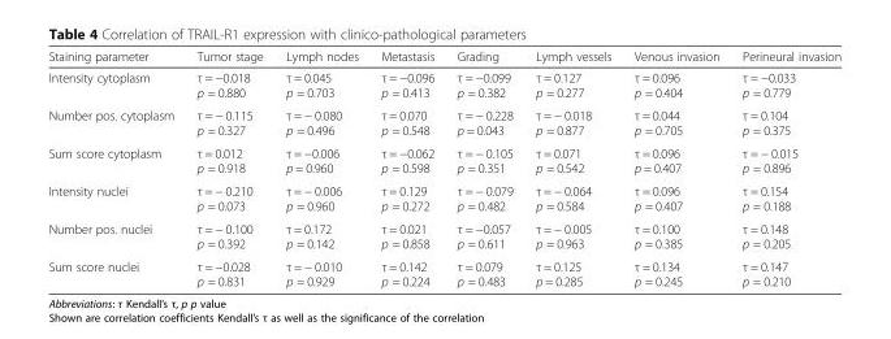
<table><thead><tr><td>Staining parameter</td><td>Tumor stage</td><td>Lymph nodes</td><td>Metastasis</td><td>Grading</td><td>Lymph vessels</td><td>Venous invasion</td><td>Perineural invasion</td></tr></thead><tbody><tr><td>Intensity cytoplasm</td><td>τ = −0.018 p = 0.880</td><td>τ = 0.045 p = 0.703</td><td>τ = −0.096 p = 0.413</td><td>τ = −0.099 p = 0.382</td><td>τ = 0.127 p = 0.277</td><td>τ = 0.096 p = 0.404</td><td>τ = −0.033 p = 0.779</td></tr><tr><td>Number pos. cytoplasm</td><td>τ = − 0.115 p = 0.327</td><td>τ = − 0.080 p = 0.496</td><td>τ = 0.070 p = 0.548</td><td>τ = − 0.228 p = 0.043</td><td>τ = − 0.018 p = 0.877</td><td>τ = 0.044 p = 0.705</td><td>τ = 0.104 p = 0.375</td></tr><tr><td>Sum score cytoplasm</td><td>τ = 0.012 p = 0.918</td><td>τ = −0.006 p = 0.960</td><td>τ = −0.062 p = 0.598</td><td>τ = − 0.105 p = 0.351</td><td>τ = 0.071 p = 0.542</td><td>τ = 0.096 p = 0.407</td><td>τ = − 0.015 p = 0.896</td></tr><tr><td>Intensity nuclei</td><td>τ = − 0.210 p = 0.073</td><td>τ = − 0.006 p = 0.960</td><td>τ = 0.129 p = 0.272</td><td>τ = − 0.079 p = 0.482</td><td>τ = − 0.064 p = 0.584</td><td>τ = 0.096 p = 0.407</td><td>τ = 0.154 p = 0.188</td></tr><tr><td>Number pos. nuclei</td><td>τ = − 0.100 p = 0.392</td><td>τ = 0.172 p = 0.142</td><td>τ = 0.021 p = 0.858</td><td>τ = −0.057 p = 0.611</td><td>τ = − 0.005 p = 0.963</td><td>τ = 0.100 p = 0.385</td><td>τ = 0.148 p = 0.205</td></tr><tr><td>Sum score nuclei</td><td>τ = −0.028 p = 0.831</td><td>τ = − 0.010 p = 0.929</td><td>τ = 0.142 p = 0.224</td><td>τ = 0.079 p = 0.483</td><td>τ = 0.125 p = 0.285</td><td>τ = 0.134 p = 0.245</td><td>τ = 0.147 p = 0.210</td></tr></tbody></table>